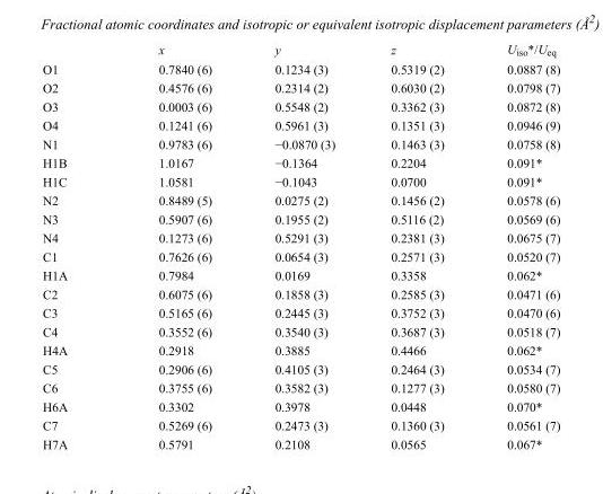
<table><thead><tr><td></td><td>x</td><td>y</td><td>z</td><td>U<sub>iso</sub>*/U<sub>eq</sub></td></tr></thead><tbody><tr><td>O1</td><td>0.7840 (6)</td><td>0.1234 (3)</td><td>0.5319 (2)</td><td>0.0887 (8)</td></tr><tr><td>O2</td><td>0.4576 (6)</td><td>0.2314 (2)</td><td>0.6030 (2)</td><td>0.0798 (7)</td></tr><tr><td>O3</td><td>0.0003 (6)</td><td>0.5548 (2)</td><td>0.3362 (3)</td><td>0.0872 (8)</td></tr><tr><td>O4</td><td>0.1241 (6)</td><td>0.5961 (3)</td><td>0.1351 (3)</td><td>0.0946 (9)</td></tr><tr><td>N1</td><td>0.9783 (6)</td><td>−0.0870 (3)</td><td>0.1463 (3)</td><td>0.0758 (8)</td></tr><tr><td>H1B</td><td>1.0167</td><td>−0.1364</td><td>0.2204</td><td>0.091*</td></tr><tr><td>H1C</td><td>1.0581</td><td>−0.1043</td><td>0.0700</td><td>0.091*</td></tr><tr><td>N2</td><td>0.8489 (5)</td><td>0.0275 (2)</td><td>0.1456 (2)</td><td>0.0578 (6)</td></tr><tr><td>N3</td><td>0.5907 (6)</td><td>0.1955 (2)</td><td>0.5116 (2)</td><td>0.0569 (6)</td></tr><tr><td>N4</td><td>0.1273 (6)</td><td>0.5291 (3)</td><td>0.2381 (3)</td><td>0.0675 (7)</td></tr><tr><td>C1</td><td>0.7626 (6)</td><td>0.0654 (3)</td><td>0.2571 (3)</td><td>0.0520 (7)</td></tr><tr><td>H1A</td><td>0.7984</td><td>0.0169</td><td>0.3358</td><td>0.062*</td></tr><tr><td>C2</td><td>0.6075 (6)</td><td>0.1858 (3)</td><td>0.2585 (3)</td><td>0.0471 (6)</td></tr><tr><td>C3</td><td>0.5165 (6)</td><td>0.2445 (3)</td><td>0.3752 (3)</td><td>0.0470 (6)</td></tr><tr><td>C4</td><td>0.3552 (6)</td><td>0.3540 (3)</td><td>0.3687 (3)</td><td>0.0518 (7)</td></tr><tr><td>H4A</td><td>0.2918</td><td>0.3885</td><td>0.4466</td><td>0.062*</td></tr><tr><td>C5</td><td>0.2906 (6)</td><td>0.4105 (3)</td><td>0.2464 (3)</td><td>0.0534 (7)</td></tr><tr><td>C6</td><td>0.3755 (6)</td><td>0.3582 (3)</td><td>0.1277 (3)</td><td>0.0580 (7)</td></tr><tr><td>H6A</td><td>0.3302</td><td>0.3978</td><td>0.0448</td><td>0.070*</td></tr><tr><td>C7</td><td>0.5269 (6)</td><td>0.2473 (3)</td><td>0.1360 (3)</td><td>0.0561 (7)</td></tr><tr><td>H7A</td><td>0.5791</td><td>0.2108</td><td>0.0565</td><td>0.067*</td></tr></tbody></table>